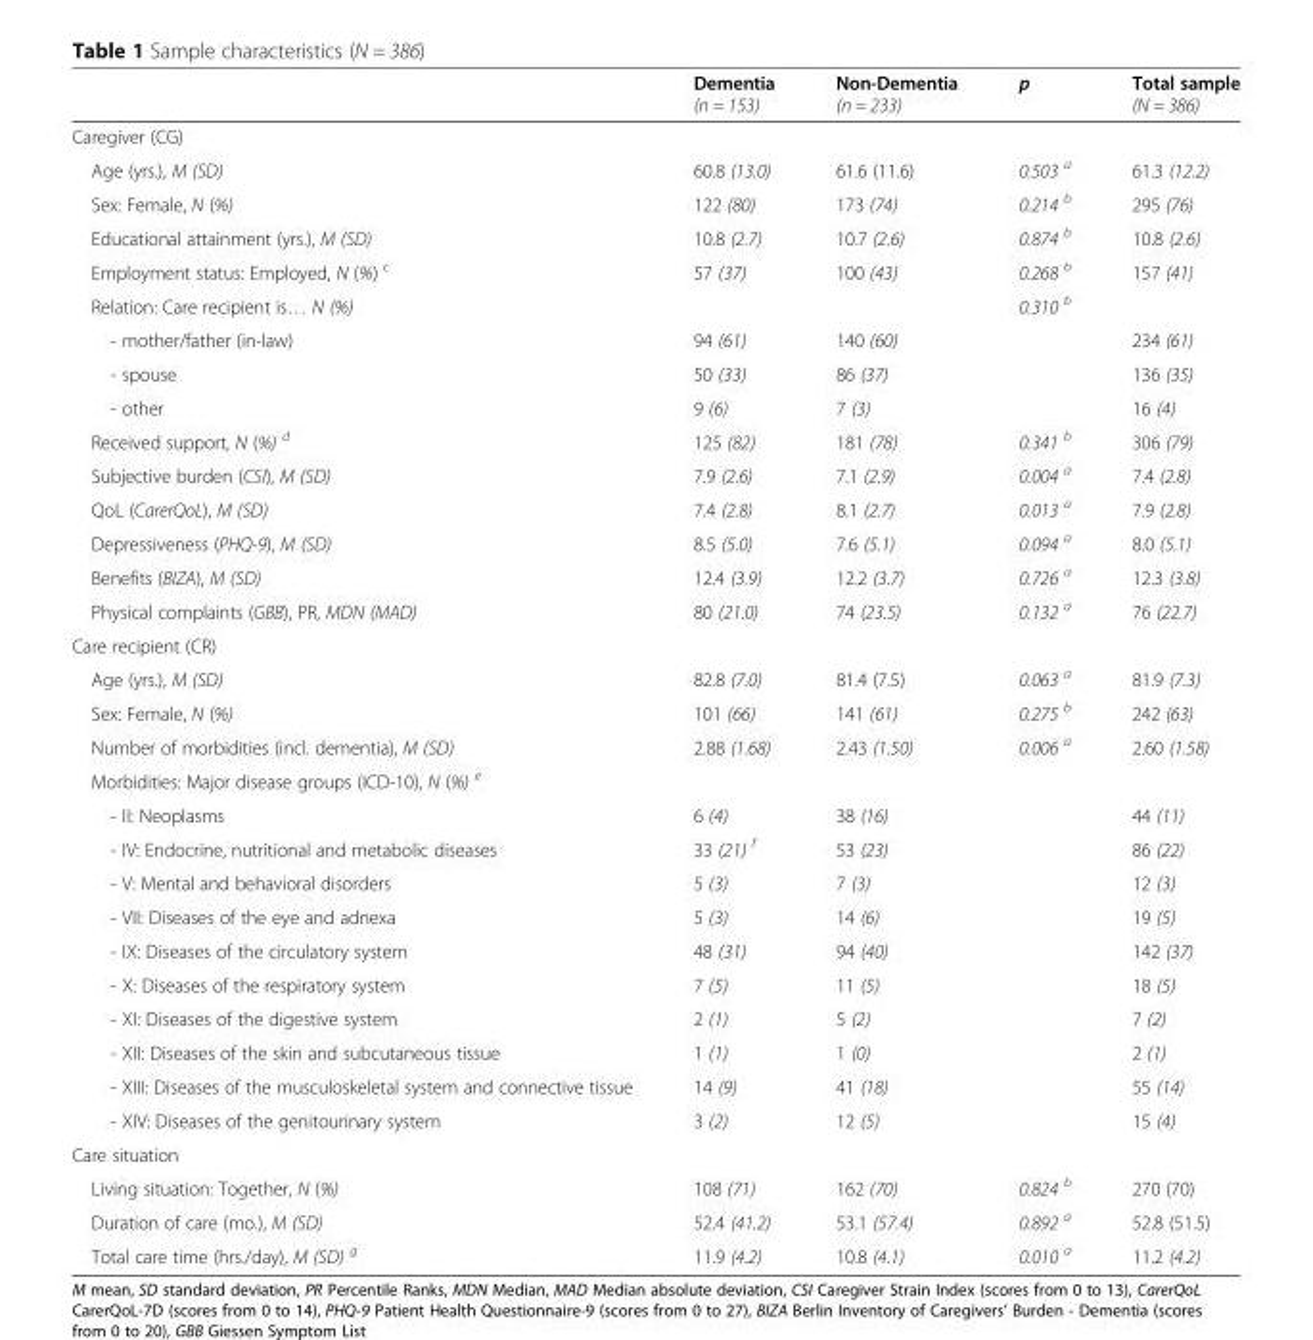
<table><thead><tr><td></td><td>Dementia (n = 153)</td><td>Non-Dementia (n = 233)</td><td>p</td><td>Total sample (N = 386)</td></tr></thead><tbody><tr><td colspan="5">Caregiver (CG)</td></tr><tr><td>Age (yrs.), M (SD)</td><td>60.8 (13.0)</td><td>61.6 (11.6)</td><td>0.503 <sup>a</sup></td><td>61.3 (12.2)</td></tr><tr><td>Sex: Female, N (%)</td><td>122 (80)</td><td>173 (74)</td><td>0.214 <sup>b</sup></td><td>295 (76)</td></tr><tr><td>Educational attainment (yrs.), M (SD)</td><td>10.8 (2.7)</td><td>10.7 (2.6)</td><td>0.874 <sup>b</sup></td><td>10.8 (2.6)</td></tr><tr><td>Employment status: Employed, N (%) <sup>c</sup></td><td>57 (37)</td><td>100 (43)</td><td>0.268 <sup>b</sup></td><td>157 (41)</td></tr><tr><td>Relation: Care recipient is… N (%)</td><td></td><td></td><td>0.310 <sup>b</sup></td><td></td></tr><tr><td>- mother/father (in-law)</td><td>94 (61)</td><td>140 (60)</td><td></td><td>234 (61)</td></tr><tr><td>- spouse</td><td>50 (33)</td><td>86 (37)</td><td></td><td>136 (35)</td></tr><tr><td>- other</td><td>9 (6)</td><td>7 (3)</td><td></td><td>16 (4)</td></tr><tr><td>Received support, N (%) <sup>d</sup></td><td>125 (82)</td><td>181 (78)</td><td>0.341 <sup>b</sup></td><td>306 (79)</td></tr><tr><td>Subjective burden (CSI), M (SD)</td><td>7.9 (2.6)</td><td>7.1 (2.9)</td><td>0.004 <sup>a</sup></td><td>7.4 (2.8)</td></tr><tr><td>QoL (CarerQoL), M (SD)</td><td>7.4 (2.8)</td><td>8.1 (2.7)</td><td>0.013 <sup>a</sup></td><td>7.9 (2.8)</td></tr><tr><td>Depressiveness (PHQ-9), M (SD)</td><td>8.5 (5.0)</td><td>7.6 (5.1)</td><td>0.094 <sup>a</sup></td><td>8.0 (5.1)</td></tr><tr><td>Benefits (BIZA), M (SD)</td><td>12.4 (3.9)</td><td>12.2 (3.7)</td><td>0.726 <sup>a</sup></td><td>12.3 (3.8)</td></tr><tr><td>Physical complaints (GBB), PR, MDN (MAD)</td><td>80 (21.0)</td><td>74 (23.5)</td><td>0.132 <sup>a</sup></td><td>76 (22.7)</td></tr><tr><td colspan="5">Care recipient (CR)</td></tr><tr><td>Age (yrs.), M (SD)</td><td>82.8 (7.0)</td><td>81.4 (7.5)</td><td>0.063 <sup>a</sup></td><td>81.9 (7.3)</td></tr><tr><td>Sex: Female, N (%)</td><td>101 (66)</td><td>141 (61)</td><td>0.275 <sup>b</sup></td><td>242 (63)</td></tr><tr><td>Number of morbidities (incl. dementia), M (SD)</td><td>2.88 (1.68)</td><td>2.43 (1.50)</td><td>0.006 <sup>a</sup></td><td>2.60 (1.58)</td></tr><tr><td colspan="5">Morbidities: Major disease groups (ICD-10), N (%) <sup>e</sup></td></tr><tr><td>- II: Neoplasms</td><td>6 (4)</td><td>38 (16)</td><td></td><td>44 (11)</td></tr><tr><td>- IV: Endocrine, nutritional and metabolic diseases</td><td>33 (21) <sup>f</sup></td><td>53 (23)</td><td></td><td>86 (22)</td></tr><tr><td>- V: Mental and behavioral disorders</td><td>5 (3)</td><td>7 (3)</td><td></td><td>12 (3)</td></tr><tr><td>- VII: Diseases of the eye and adnexa</td><td>5 (3)</td><td>14 (6)</td><td></td><td>19 (5)</td></tr><tr><td>- IX: Diseases of the circulatory system</td><td>48 (31)</td><td>94 (40)</td><td></td><td>142 (37)</td></tr><tr><td>- X: Diseases of the respiratory system</td><td>7 (5)</td><td>11 (5)</td><td></td><td>18 (5)</td></tr><tr><td>- XI: Diseases of the digestive system</td><td>2 (1)</td><td>5 (2)</td><td></td><td>7 (2)</td></tr><tr><td>- XII: Diseases of the skin and subcutaneous tissue</td><td>1 (1)</td><td>1 (0)</td><td></td><td>2 (1)</td></tr><tr><td>- XIII: Diseases of the musculoskeletal system and connective tissue</td><td>14 (9)</td><td>41 (18)</td><td></td><td>55 (14)</td></tr><tr><td>- XIV: Diseases of the genitourinary system</td><td>3 (2)</td><td>12 (5)</td><td></td><td>15 (4)</td></tr><tr><td colspan="5">Care situation</td></tr><tr><td>Living situation: Together, N (%)</td><td>108 (71)</td><td>162 (70)</td><td>0.824 <sup>b</sup></td><td>270 (70)</td></tr><tr><td>Duration of care (mo.), M (SD)</td><td>52.4 (41.2)</td><td>53.1 (57.4)</td><td>0.892 <sup>a</sup></td><td>52.8 (51.5)</td></tr><tr><td>Total care time (hrs./day), M (SD) <sup>g</sup></td><td>11.9 (4.2)</td><td>10.8 (4.1)</td><td>0.010 <sup>a</sup></td><td>11.2 (4.2)</td></tr></tbody></table>